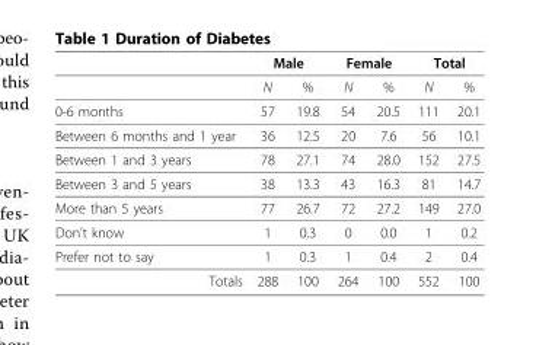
<table><thead><tr><td rowspan="2"></td><td colspan="2">Male</td><td colspan="2">Female</td><td colspan="2">Total</td></tr><tr><td>N</td><td>%</td><td>N</td><td>%</td><td>N</td><td>%</td></tr></thead><tbody><tr><td>0-6 months</td><td>57</td><td>19.8</td><td>54</td><td>20.5</td><td>111</td><td>20.1</td></tr><tr><td>Between 6 months and 1 year</td><td>36</td><td>12.5</td><td>20</td><td>7.6</td><td>56</td><td>10.1</td></tr><tr><td>Between 1 and 3 years</td><td>78</td><td>27.1</td><td>74</td><td>28.0</td><td>152</td><td>27.5</td></tr><tr><td>Between 3 and 5 years</td><td>38</td><td>13.3</td><td>43</td><td>16.3</td><td>81</td><td>14.7</td></tr><tr><td>More than 5 years</td><td>77</td><td>26.7</td><td>72</td><td>27.2</td><td>149</td><td>27.0</td></tr><tr><td>Don’t know</td><td>1</td><td>0.3</td><td>0</td><td>0.0</td><td>1</td><td>0.2</td></tr><tr><td>Prefer not to say</td><td>1</td><td>0.3</td><td>1</td><td>0.4</td><td>2</td><td>0.4</td></tr><tr><td>Totals</td><td>288</td><td>100</td><td>264</td><td>100</td><td>552</td><td>100</td></tr></tbody></table>